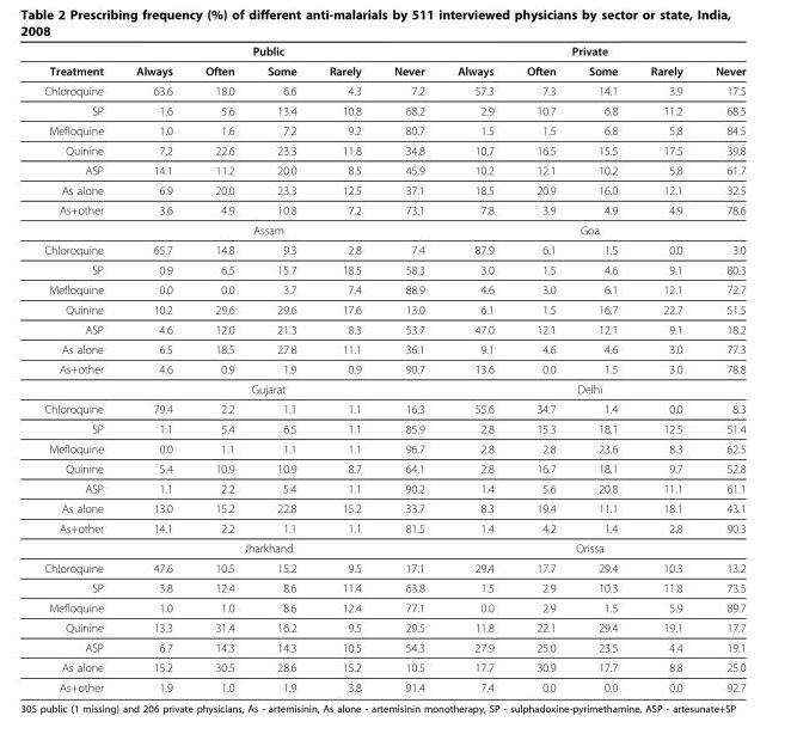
<table><thead><tr><td rowspan="2">Treatment</td><td colspan="5">Public</td><td colspan="5">Private</td></tr><tr><td>Always</td><td>Often</td><td>Some</td><td>Rarely</td><td>Never</td><td>Always</td><td>Often</td><td>Some</td><td>Rarely</td><td>Never</td></tr></thead><tbody><tr><td>Chloroquine</td><td>63.6</td><td>18.0</td><td>6.6</td><td>4.3</td><td>7.2</td><td>57.3</td><td>7.3</td><td>14.1</td><td>3.9</td><td>17.5</td></tr><tr><td>SP</td><td>1.6</td><td>5.6</td><td>13.4</td><td>10.8</td><td>68.2</td><td>2.9</td><td>10.7</td><td>6.8</td><td>11.2</td><td>68.5</td></tr><tr><td>Mefloquine</td><td>1.0</td><td>1.6</td><td>7.2</td><td>9.2</td><td>80.7</td><td>1.5</td><td>1.5</td><td>6.8</td><td>5.8</td><td>84.5</td></tr><tr><td>Quinine</td><td>7.2</td><td>22.6</td><td>23.3</td><td>11.8</td><td>34.8</td><td>10.7</td><td>16.5</td><td>15.5</td><td>17.5</td><td>39.8</td></tr><tr><td>ASP</td><td>14.1</td><td>11.2</td><td>20.0</td><td>8.5</td><td>45.9</td><td>10.2</td><td>12.1</td><td>10.2</td><td>5.8</td><td>61.7</td></tr><tr><td>As alone</td><td>6.9</td><td>20.0</td><td>23.3</td><td>12.5</td><td>37.1</td><td>18.5</td><td>20.9</td><td>16.0</td><td>12.1</td><td>32.5</td></tr><tr><td rowspan="2">As+other</td><td>3.6</td><td>4.9</td><td>10.8</td><td>7.2</td><td>73.1</td><td>7.8</td><td>3.9</td><td>4.9</td><td>4.9</td><td>78.6</td></tr><tr><td colspan="5">Assam</td><td colspan="5">Goa</td></tr><tr><td>Chloroquine</td><td>65.7</td><td>14.8</td><td>9.3</td><td>2.8</td><td>7.4</td><td>87.9</td><td>6.1</td><td>1.5</td><td>0.0</td><td>3.0</td></tr><tr><td>SP</td><td>0.9</td><td>6.5</td><td>15.7</td><td>18.5</td><td>58.3</td><td>3.0</td><td>1.5</td><td>4.6</td><td>9.1</td><td>80.3</td></tr><tr><td>Mefloquine</td><td>0.0</td><td>0.0</td><td>3.7</td><td>7.4</td><td>88.9</td><td>4.6</td><td>3.0</td><td>6.1</td><td>12.1</td><td>72.7</td></tr><tr><td>Quinine</td><td>10.2</td><td>29.6</td><td>29.6</td><td>17.6</td><td>13.0</td><td>6.1</td><td>1.5</td><td>16.7</td><td>22.7</td><td>51.5</td></tr><tr><td>ASP</td><td>4.6</td><td>12.0</td><td>21.3</td><td>8.3</td><td>53.7</td><td>47.0</td><td>12.1</td><td>12.1</td><td>9.1</td><td>18.2</td></tr><tr><td>As alone</td><td>6.5</td><td>18.5</td><td>27.8</td><td>11.1</td><td>36.1</td><td>9.1</td><td>4.6</td><td>4.6</td><td>3.0</td><td>77.3</td></tr><tr><td rowspan="2">As+other</td><td>4.6</td><td>0.9</td><td>1.9</td><td>0.9</td><td>90.7</td><td>13.6</td><td>0.0</td><td>1.5</td><td>3.0</td><td>78.8</td></tr><tr><td colspan="5">Gujarat</td><td colspan="5">Delhi</td></tr><tr><td>Chloroquine</td><td>79.4</td><td>2.2</td><td>1.1</td><td>1.1</td><td>16.3</td><td>55.6</td><td>34.7</td><td>1.4</td><td>0.0</td><td>8.3</td></tr><tr><td>SP</td><td>1.1</td><td>5.4</td><td>6.5</td><td>1.1</td><td>85.9</td><td>2.8</td><td>15.3</td><td>18.1</td><td>12.5</td><td>51.4</td></tr><tr><td>Mefloquine</td><td>0.0</td><td>1.1</td><td>1.1</td><td>1.1</td><td>96.7</td><td>2.8</td><td>2.8</td><td>23.6</td><td>8.3</td><td>62.5</td></tr><tr><td>Quinine</td><td>5.4</td><td>10.9</td><td>10.9</td><td>8.7</td><td>64.1</td><td>2.8</td><td>16.7</td><td>18.1</td><td>9.7</td><td>52.8</td></tr><tr><td>ASP</td><td>1.1</td><td>2.2</td><td>5.4</td><td>1.1</td><td>90.2</td><td>1.4</td><td>5.6</td><td>20.8</td><td>11.1</td><td>61.1</td></tr><tr><td>As alone</td><td>13.0</td><td>15.2</td><td>22.8</td><td>15.2</td><td>33.7</td><td>8.3</td><td>19.4</td><td>11.1</td><td>18.1</td><td>43.1</td></tr><tr><td rowspan="2">As+other</td><td>14.1</td><td>2.2</td><td>1.1</td><td>1.1</td><td>81.5</td><td>1.4</td><td>4.2</td><td>1.4</td><td>2.8</td><td>90.3</td></tr><tr><td colspan="5">Jharkhand</td><td colspan="5">Orissa</td></tr><tr><td>Chloroquine</td><td>47.6</td><td>10.5</td><td>15.2</td><td>9.5</td><td>17.1</td><td>29.4</td><td>17.7</td><td>29.4</td><td>10.3</td><td>13.2</td></tr><tr><td>SP</td><td>3.8</td><td>12.4</td><td>8.6</td><td>11.4</td><td>63.8</td><td>1.5</td><td>2.9</td><td>10.3</td><td>11.8</td><td>73.5</td></tr><tr><td>Mefloquine</td><td>1.0</td><td>1.0</td><td>8.6</td><td>12.4</td><td>77.1</td><td>0.0</td><td>2.9</td><td>1.5</td><td>5.9</td><td>89.7</td></tr><tr><td>Quinine</td><td>13.3</td><td>31.4</td><td>16.2</td><td>9.5</td><td>29.5</td><td>11.8</td><td>22.1</td><td>29.4</td><td>19.1</td><td>17.7</td></tr><tr><td>ASP</td><td>6.7</td><td>14.3</td><td>14.3</td><td>10.5</td><td>54.3</td><td>27.9</td><td>25.0</td><td>23.5</td><td>4.4</td><td>19.1</td></tr><tr><td>As alone</td><td>15.2</td><td>30.5</td><td>28.6</td><td>15.2</td><td>10.5</td><td>17.7</td><td>30.9</td><td>17.7</td><td>8.8</td><td>25.0</td></tr><tr><td>As+other</td><td>1.9</td><td>1.0</td><td>1.9</td><td>3.8</td><td>91.4</td><td>7.4</td><td>0.0</td><td>0.0</td><td>0.0</td><td>92.7</td></tr></tbody></table>